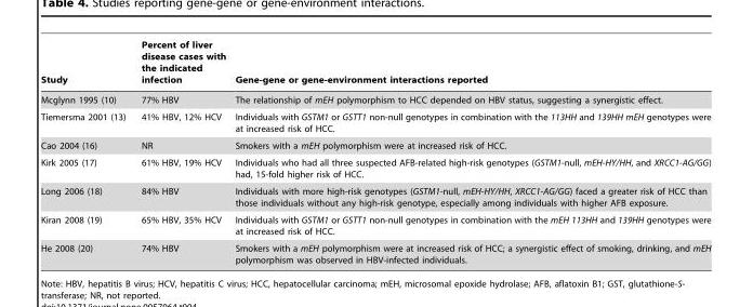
<table><thead><tr><td>Study</td><td>Percent of liver disease cases with the indicated infection</td><td>Gene-gene or gene-environment interactions reported</td></tr></thead><tbody><tr><td>Mcglynn 1995 (10)</td><td>77% HBV</td><td>The relationship of mEH polymorphism to HCC depended on HBV status, suggesting a synergistic effect.</td></tr><tr><td>Tiemersma 2001 (13)</td><td>41% HBV, 12% HCV</td><td>Individuals with GSTM1 or GSTT1 non-null genotypes in combination with the 113HH and 139HH mEH genotypes were at increased risk of HCC.</td></tr><tr><td>Cao 2004 (16)</td><td>NR</td><td>Smokers with a mEH polymorphism were at increased risk of HCC.</td></tr><tr><td>Kirk 2005 (17)</td><td>61% HBV, 19% HCV</td><td>Individuals who had all three suspected AFB-related high-risk genotypes (GSTM1-null, mEH-HY/HH, and XRCC1-AG/GG) had, 15-fold higher risk of HCC.</td></tr><tr><td>Long 2006 (18)</td><td>84% HBV</td><td>Individuals with more high-risk genotypes (GSTM1-null, mEH-HY/HH, XRCC1-AG/GG) faced a greater risk of HCC than those individuals without any high-risk genotype, especially among individuals with higher AFB exposure.</td></tr><tr><td>Kiran 2008 (19)</td><td>65% HBV, 35% HCV</td><td>Individuals with GSTM1 or GSTT1 non-null genotypes in combination with the mEH 113HH and 139HH genotypes were at increased risk of HCC.</td></tr><tr><td>He 2008 (20)</td><td>74% HBV</td><td>Smokers with a mEH polymorphism were at increased risk of HCC; a synergistic effect of smoking, drinking, and mEH polymorphism was observed in HBV-infected individuals.</td></tr></tbody></table>